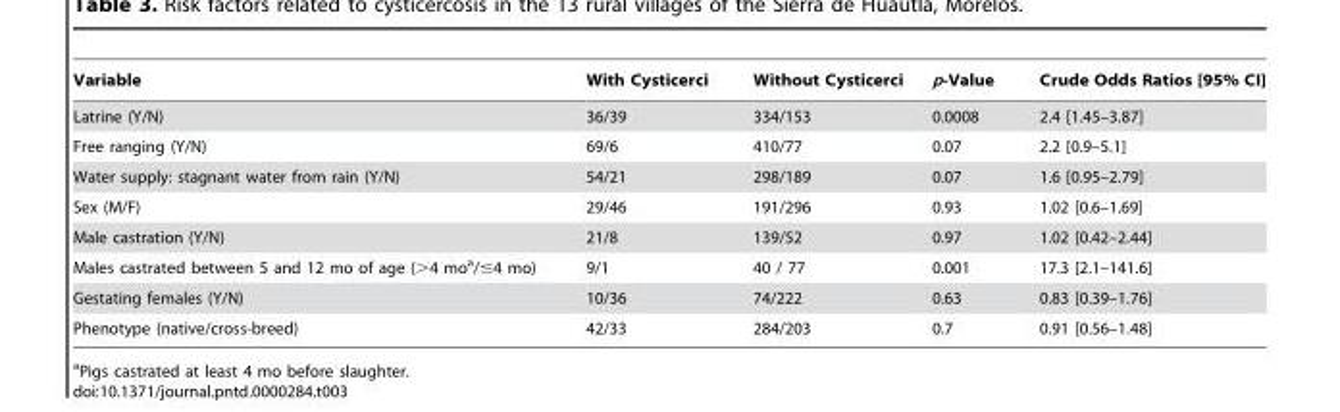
<table><thead><tr><td>Variable</td><td>With Cysticerci</td><td>Without Cysticerci</td><td>p-Value</td><td>Crude Odds Ratios [95% CI]</td></tr></thead><tbody><tr><td>Latrine (Y/N)</td><td>36/39</td><td>334/153</td><td>0.0008</td><td>2.4 [1.45–3.87]</td></tr><tr><td>Free ranging (Y/N)</td><td>69/6</td><td>410/77</td><td>0.07</td><td>2.2 [0.9–5.1]</td></tr><tr><td>Water supply: stagnant water from rain (Y/N)</td><td>54/21</td><td>298/189</td><td>0.07</td><td>1.6 [0.95–2.79]</td></tr><tr><td>Sex (M/F)</td><td>29/46</td><td>191/296</td><td>0.93</td><td>1.02 [0.6–1.69]</td></tr><tr><td>Male castration (Y/N)</td><td>21/8</td><td>139/52</td><td>0.97</td><td>1.02 [0.42–2.44]</td></tr><tr><td>Males castrated between 5 and 12 mo of age (&gt;4 mo<sup>a</sup>/≤4 mo)</td><td>9/1</td><td>40 / 77</td><td>0.001</td><td>17.3 [2.1–141.6]</td></tr><tr><td>Gestating females (Y/N)</td><td>10/36</td><td>74/222</td><td>0.63</td><td>0.83 [0.39–1.76]</td></tr><tr><td>Phenotype (native/cross-breed)</td><td>42/33</td><td>284/203</td><td>0.7</td><td>0.91 [0.56–1.48]</td></tr></tbody></table>